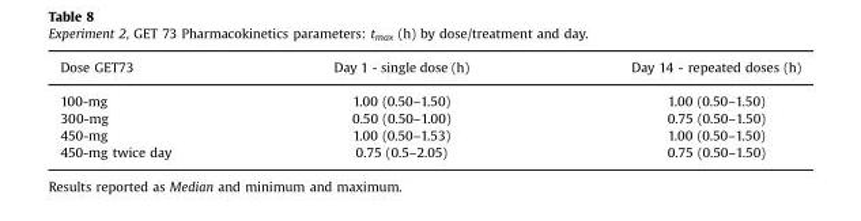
<table><thead><tr><td>Dose GET73</td><td>Day 1 - single dose (h)</td><td>Day 14 - repeated doses (h)</td></tr></thead><tbody><tr><td>100-mg</td><td>1.00 (0.50–1.50)</td><td>1.00 (0.50–1.50)</td></tr><tr><td>300-mg</td><td>0.50 (0.50–1.00)</td><td>0.75 (0.50–1.50)</td></tr><tr><td>450-mg</td><td>1.00 (0.50–1.53)</td><td>1.00 (0.50–1.50)</td></tr><tr><td>450-mg twice day</td><td>0.75 (0.5–2.05)</td><td>0.75 (0.50–1.50)</td></tr></tbody></table>